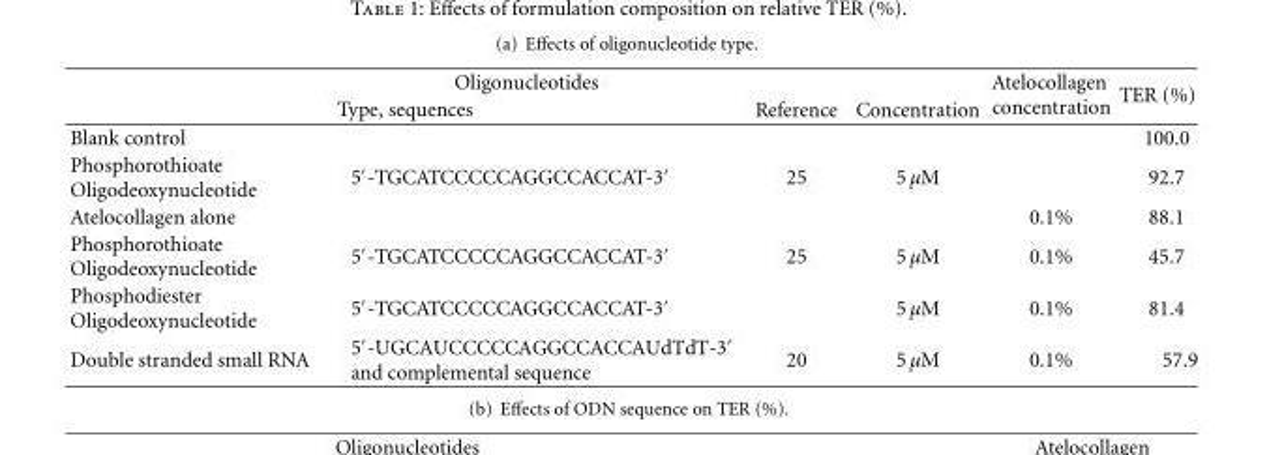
<table><thead><tr><td colspan="4">Oligonucleotides</td><td rowspan="3">Atelocollagen concentration</td><td rowspan="3">TER (%) 100.0</td></tr><tr><td colspan="2">Type, sequences</td><td rowspan="2">Reference</td><td rowspan="2">Concentration</td></tr><tr><td>Blank control</td><td></td></tr></thead><tbody><tr><td>Phosphorothioate Oligodeoxynucleotide</td><td>5′-TGCATCCCCCAGGCCACCAT-3′</td><td>25</td><td>5 μM</td><td></td><td>92.7</td></tr><tr><td>Atelocollagen alone</td><td></td><td></td><td></td><td>0.1%</td><td>88.1</td></tr><tr><td>Phosphorothioate Oligodeoxynucleotide</td><td>5′-TGCATCCCCCAGGCCACCAT-3′</td><td>25</td><td>5 μM</td><td>0.1%</td><td>45.7</td></tr><tr><td>Phosphodiester Oligodeoxynucleotide</td><td>5′-TGCATCCCCCAGGCCACCAT-3′</td><td></td><td>5 μM</td><td>0.1%</td><td>81.4</td></tr><tr><td>Double stranded small RNA</td><td>5′-UGCAUCCCCCAGGCCACCAUdTdT-3′ and complemental sequence</td><td>20</td><td>5 μM</td><td>0.1%</td><td>57.9</td></tr></tbody></table>